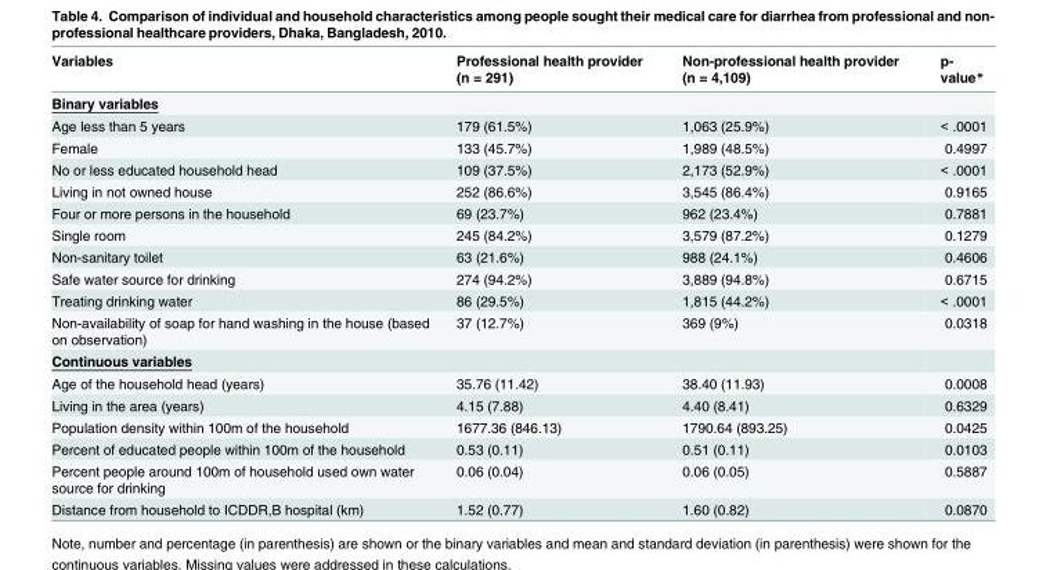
<table><thead><tr><td>Variables</td><td>Professional health provider (n = 291)</td><td>Non-professional health provider (n = 4,109)</td><td>p- value*</td></tr></thead><tbody><tr><td colspan="4">Binary variables</td></tr><tr><td>Age less than 5 years</td><td>179 (61.5%)</td><td>1,063 (25.9%)</td><td>&lt; .0001</td></tr><tr><td>Female</td><td>133 (45.7%)</td><td>1,989 (48.5%)</td><td>0.4997</td></tr><tr><td>No or less educated household head</td><td>109 (37.5%)</td><td>2,173 (52.9%)</td><td>&lt; .0001</td></tr><tr><td>Living in not owned house</td><td>252 (86.6%)</td><td>3,545 (86.4%)</td><td>0.9165</td></tr><tr><td>Four or more persons in the household</td><td>69 (23.7%)</td><td>962 (23.4%)</td><td>0.7881</td></tr><tr><td>Single room</td><td>245 (84.2%)</td><td>3,579 (87.2%)</td><td>0.1279</td></tr><tr><td>Non-sanitary toilet</td><td>63 (21.6%)</td><td>988 (24.1%)</td><td>0.4606</td></tr><tr><td>Safe water source for drinking</td><td>274 (94.2%)</td><td>3,889 (94.8%)</td><td>0.6715</td></tr><tr><td>Treating drinking water</td><td>86 (29.5%)</td><td>1,815 (44.2%)</td><td>&lt; .0001</td></tr><tr><td>Non-availability of soap for hand washing in the house (based on observation)</td><td>37 (12.7%)</td><td>369 (9%)</td><td>0.0318</td></tr><tr><td colspan="4">Continuous variables</td></tr><tr><td>Age of the household head (years)</td><td>35.76 (11.42)</td><td>38.40 (11.93)</td><td>0.0008</td></tr><tr><td>Living in the area (years)</td><td>4.15 (7.88)</td><td>4.40 (8.41)</td><td>0.6329</td></tr><tr><td>Population density within 100m of the household</td><td>1677.36 (846.13)</td><td>1790.64 (893.25)</td><td>0.0425</td></tr><tr><td>Percent of educated people within 100m of the household</td><td>0.53 (0.11)</td><td>0.51 (0.11)</td><td>0.0103</td></tr><tr><td>Percent people around 100m of household used own water source for drinking</td><td>0.06 (0.04)</td><td>0.06 (0.05)</td><td>0.5887</td></tr><tr><td>Distance from household to ICDDR,B hospital (km)</td><td>1.52 (0.77)</td><td>1.60 (0.82)</td><td>0.0870</td></tr></tbody></table>